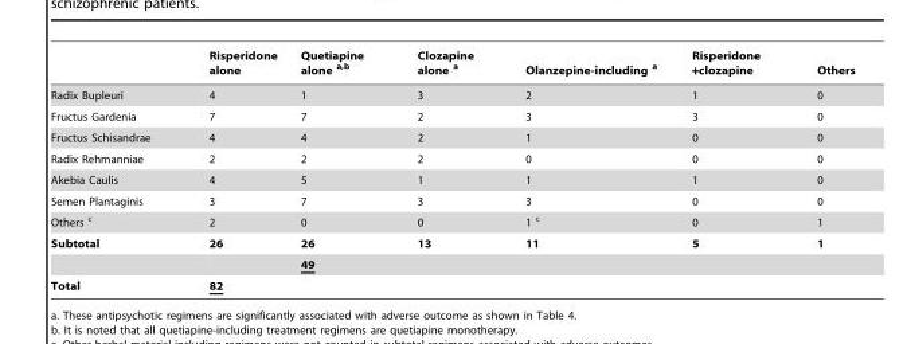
<table><thead><tr><td></td><td>Risperidone alone</td><td>Quetiapine alone a,b</td><td>Clozapine alone a</td><td>Olanzepine-including a</td><td>Risperidone +clozapine</td><td>Others</td></tr></thead><tbody><tr><td>Radix Bupleuri</td><td>4</td><td>1</td><td>3</td><td>2</td><td>1</td><td>0</td></tr><tr><td>Fructus Gardenia</td><td>7</td><td>7</td><td>2</td><td>3</td><td>3</td><td>0</td></tr><tr><td>Fructus Schisandrae</td><td>4</td><td>4</td><td>2</td><td>1</td><td>0</td><td>0</td></tr><tr><td>Radix Rehmanniae</td><td>2</td><td>2</td><td>2</td><td>0</td><td>0</td><td>0</td></tr><tr><td>Akebia Caulis</td><td>4</td><td>5</td><td>1</td><td>1</td><td>1</td><td>0</td></tr><tr><td>Semen Plantaginis</td><td>3</td><td>7</td><td>3</td><td>3</td><td>0</td><td>0</td></tr><tr><td>Others c</td><td>2</td><td>0</td><td>0</td><td>1 c</td><td>0</td><td>1</td></tr><tr><td rowspan="2">Subtotal</td><td>26</td><td>26</td><td>13</td><td>11</td><td>5</td><td>1</td></tr><tr><td></td><td colspan="5">49</td></tr><tr><td>Total</td><td colspan="6">82</td></tr></tbody></table>